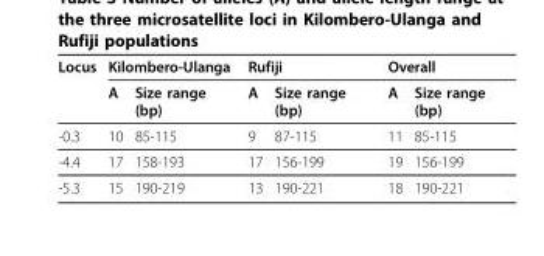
<table><thead><tr><td rowspan="2">Locus</td><td colspan="2">Kilombero-Ulanga</td><td colspan="2">Rufiji</td><td colspan="2">Overall</td></tr><tr><td>A</td><td>Size range (bp)</td><td>A</td><td>Size range (bp)</td><td>A</td><td>Size range (bp)</td></tr></thead><tbody><tr><td>-0.3</td><td>10</td><td>85-115</td><td>9</td><td>87-115</td><td>11</td><td>85-115</td></tr><tr><td>-4.4</td><td>17</td><td>158-193</td><td>17</td><td>156-199</td><td>19</td><td>156-199</td></tr><tr><td>-5.3</td><td>15</td><td>190-219</td><td>13</td><td>190-221</td><td>18</td><td>190-221</td></tr></tbody></table>